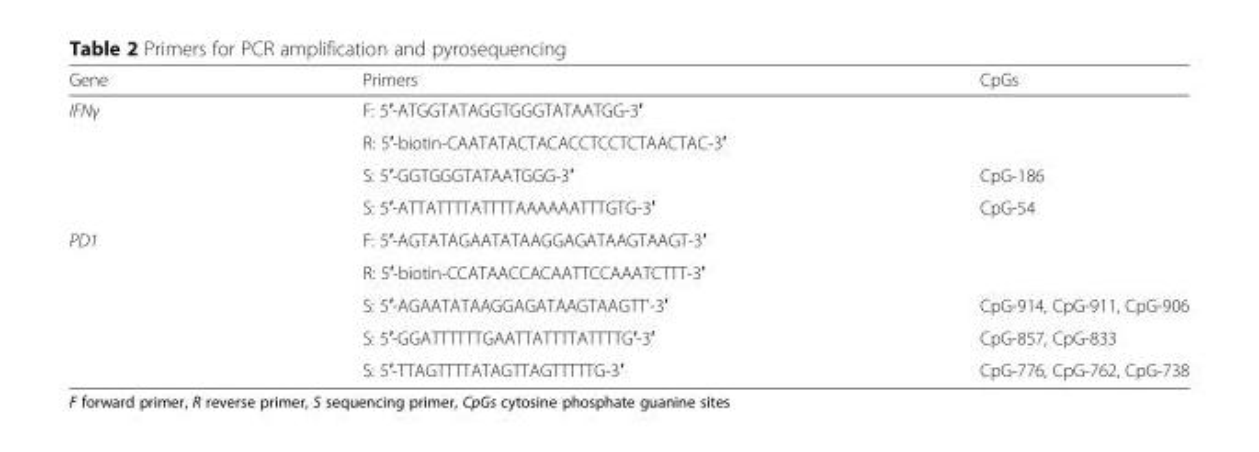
<table><thead><tr><td>Gene</td><td>Primers</td><td>CpGs</td></tr></thead><tbody><tr><td rowspan="4">IFNγ</td><td>F: 5′-ATGGTATAGGTGGGTATAATGG-3′</td><td></td></tr><tr><td>R: 5′-biotin-CAATATACTACACCTCCTCTAACTAC-3′</td><td></td></tr><tr><td>S: 5′-GGTGGGTATAATGGG-3′</td><td>CpG-186</td></tr><tr><td>S: 5′-ATTATTTTATTTTAAAAAATTTGTG-3′</td><td>CpG-54</td></tr><tr><td rowspan="5">PD1</td><td>F: 5′-AGTATAGAATATAAGGAGATAAGTAAGT-3′</td><td></td></tr><tr><td>R: 5′-biotin-CCATAACCACAATTCCAAATCTTT-3′</td><td></td></tr><tr><td>S: 5′-AGAATATAAGGAGATAAGTAAGTT’-3′</td><td>CpG-914, CpG-911, CpG-906</td></tr><tr><td>S: 5′-GGATTTTTTGAATTATTTTATTTTG′-3′</td><td>CpG-857, CpG-833</td></tr><tr><td>S: 5′-TTAGTTTTATAGTTAGTTTTTG-3′</td><td>CpG-776, CpG-762, CpG-738</td></tr></tbody></table>